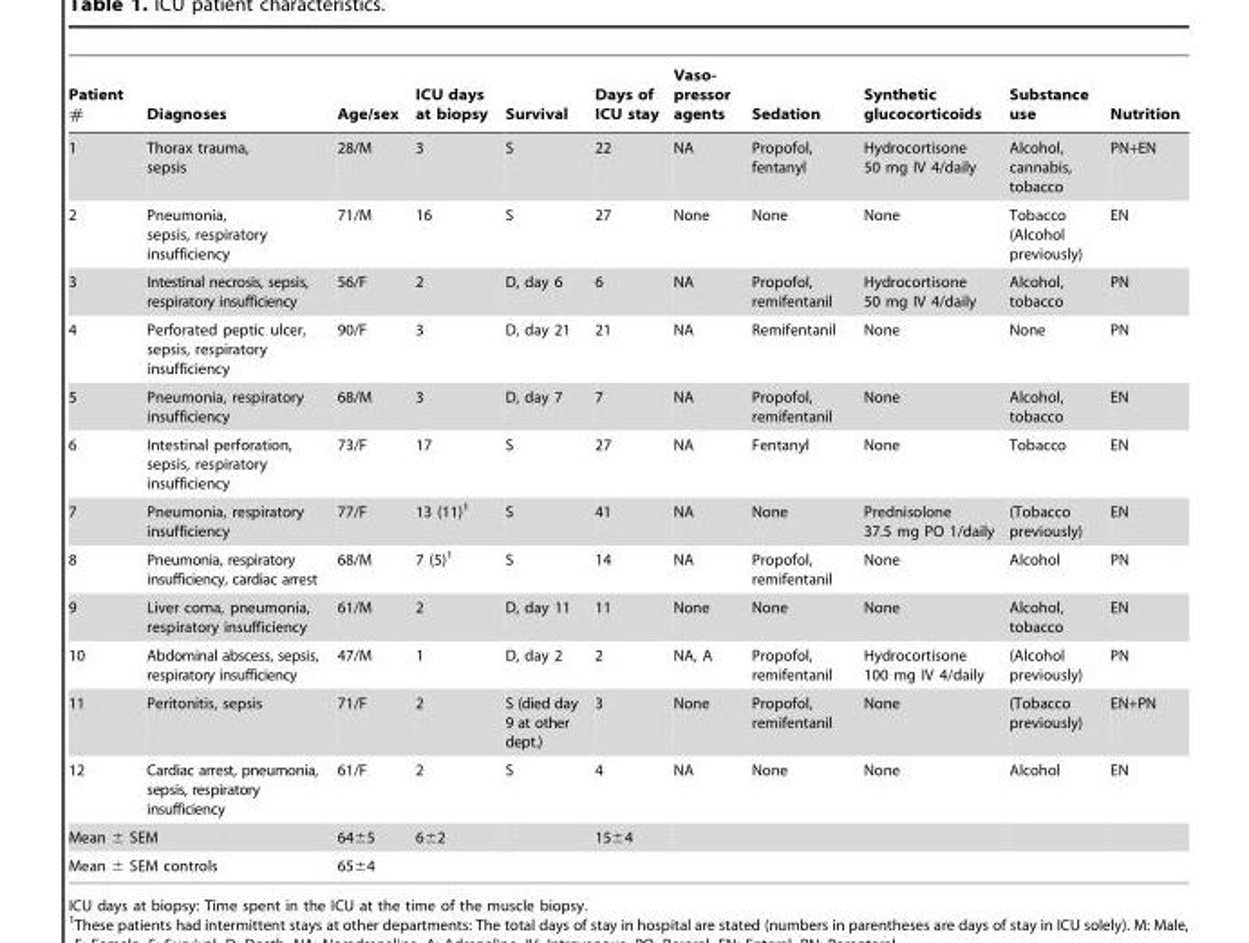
<table><thead><tr><td>Patient #</td><td>Diagnoses</td><td>Age/sex</td><td>ICU days at biopsy</td><td>Survival</td><td>Days of ICU stay</td><td>Vaso- pressor agents</td><td>Sedation</td><td>Synthetic glucocorticoids</td><td>Substance use</td><td>Nutrition</td></tr></thead><tbody><tr><td>1</td><td>Thorax trauma, sepsis</td><td>28/M</td><td>3</td><td>S</td><td>22</td><td>NA</td><td>Propofol, fentanyl</td><td>Hydrocortisone 50 mg IV 4/daily</td><td>Alcohol, cannabis, tobacco</td><td>PN+EN</td></tr><tr><td>2</td><td>Pneumonia, sepsis, respiratory insufficiency</td><td>71/M</td><td>16</td><td>S</td><td>27</td><td>None</td><td>None</td><td>None</td><td>Tobacco (Alcohol previously)</td><td>EN</td></tr><tr><td>3</td><td>Intestinal necrosis, sepsis, respiratory insufficiency</td><td>56/F</td><td>2</td><td>D, day 6</td><td>6</td><td>NA</td><td>Propofol, remifentanil</td><td>Hydrocortisone 50 mg IV 4/daily</td><td>Alcohol, tobacco</td><td>PN</td></tr><tr><td>4</td><td>Perforated peptic ulcer, sepsis, respiratory insufficiency</td><td>90/F</td><td>3</td><td>D, day 21</td><td>21</td><td>NA</td><td>Remifentanil</td><td>None</td><td>None</td><td>PN</td></tr><tr><td>5</td><td>Pneumonia, respiratory insufficiency</td><td>68/M</td><td>3</td><td>D, day 7</td><td>7</td><td>NA</td><td>Propofol, remifentanil</td><td>None</td><td>Alcohol, tobacco</td><td>EN</td></tr><tr><td>6</td><td>Intestinal perforation, sepsis, respiratory insufficiency</td><td>73/F</td><td>17</td><td>S</td><td>27</td><td>NA</td><td>Fentanyl</td><td>None</td><td>Tobacco</td><td>EN</td></tr><tr><td>7</td><td>Pneumonia, respiratory insufficiency</td><td>77/F</td><td>13 (11)<sup>1</sup></td><td>S</td><td>41</td><td>NA</td><td>None</td><td>Prednisolone 37.5 mg PO 1/daily</td><td>(Tobacco previously)</td><td>EN</td></tr><tr><td>8</td><td>Pneumonia, respiratory insufficiency, cardiac arrest</td><td>68/M</td><td>7 (5)<sup>1</sup></td><td>S</td><td>14</td><td>NA</td><td>Propofol, remifentanil</td><td>None</td><td>Alcohol</td><td>PN</td></tr><tr><td>9</td><td>Liver coma, pneumonia, respiratory insufficiency</td><td>61/M</td><td>2</td><td>D, day 11</td><td>11</td><td>None</td><td>None</td><td>None</td><td>Alcohol, tobacco</td><td>EN</td></tr><tr><td>10</td><td>Abdominal abscess, sepsis, respiratory insufficiency</td><td>47/M</td><td>1</td><td>D, day 2</td><td>2</td><td>NA, A</td><td>Propofol, remifentanil</td><td>Hydrocortisone 100 mg IV 4/daily</td><td>(Alcohol previously)</td><td>PN</td></tr><tr><td>11</td><td>Peritonitis, sepsis</td><td>71/F</td><td>2</td><td>S (died day 9 at other dept.)</td><td>3</td><td>None</td><td>Propofol, remifentanil</td><td>None</td><td>(Tobacco previously)</td><td>EN+PN</td></tr><tr><td>12</td><td>Cardiac arrest, pneumonia, sepsis, respiratory insufficiency</td><td>61/F</td><td>2</td><td>S</td><td>4</td><td>NA</td><td>None</td><td>None</td><td>Alcohol</td><td>EN</td></tr><tr><td colspan="2">Mean ± SEM</td><td>64±5</td><td>6±2</td><td></td><td>15±4</td><td></td><td></td><td></td><td></td><td></td></tr><tr><td colspan="2">Mean ± SEM controls</td><td>65±4</td><td></td><td></td><td></td><td></td><td></td><td></td><td></td><td></td></tr></tbody></table>